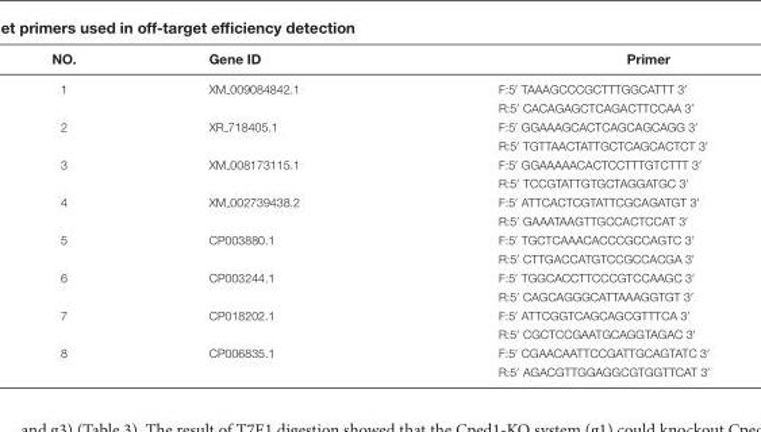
<table><thead><tr><td>NO.</td><td>Gene ID</td><td>Primer</td></tr></thead><tbody><tr><td rowspan="2">1</td><td>XM 009084842.1</td><td>F:5′ TAAAGCCCGCTTTGGCATTT 3′</td></tr><tr><td></td><td>R:5′ CACAGAGCTCAGACTTCCAA 3’</td></tr><tr><td rowspan="2">2</td><td>XR 718405.1</td><td>F:5′ GGAAAGCACTCAGCAGCAGG 3′</td></tr><tr><td></td><td>R:5′ TGTTAACTATTGCTCAGCACTCT 3′</td></tr><tr><td rowspan="2">3</td><td>XM 008173115.1</td><td>F:5′ GGAAAAACACTCCTTTGTCTTT 3′</td></tr><tr><td></td><td>R:5′ TCCGTATTGTGCTAGGATGC 3′</td></tr><tr><td rowspan="2">4</td><td>XM 002739438.2</td><td>F:5′ ATTCACTCGTATTCGCAGATGT 3′</td></tr><tr><td></td><td>R:5′ GAAATAAGTTGCCACTCCAT 3′</td></tr><tr><td rowspan="2">5</td><td>CP003880.1</td><td>F:5′ TGCTCAAACACCCGCCAGTC 3′</td></tr><tr><td></td><td>R:5′ CTTGACCATGTCCGCCACGA 3′</td></tr><tr><td rowspan="2">6</td><td>CP003244.1</td><td>F:5′ TGGCACCTTCCCGTCCAAGC 3′</td></tr><tr><td></td><td>R:5′ CAGCAGGGCATTAAAGGTGT 3′</td></tr><tr><td rowspan="2">7</td><td>CP018202.1</td><td>F:5′ ATTCGGTCAGCAGCGTTTCA 3′</td></tr><tr><td></td><td>R:5′ CGCTCCGAATGCAGGTAGAC 3′</td></tr><tr><td rowspan="2">8</td><td>CP006835.1</td><td>F:5′ CGAACAATTCCGATTGCAGTATC 3′</td></tr><tr><td></td><td>R:5′ AGACGTTGGAGGCGTGGTTCAT 3′</td></tr></tbody></table>